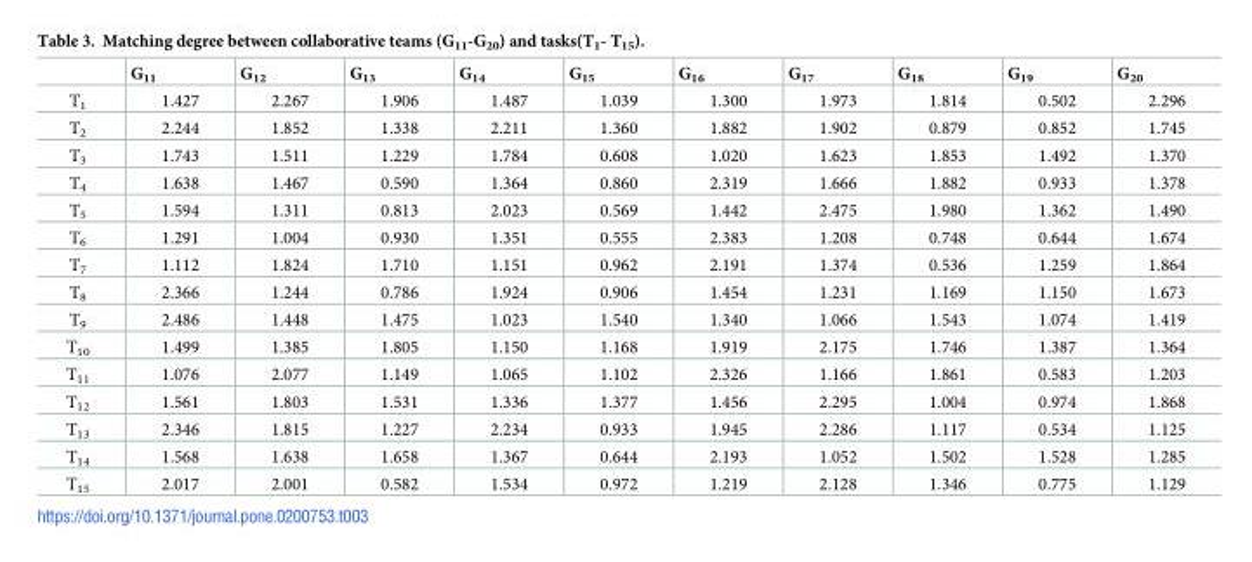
<table><thead><tr><td></td><td>G<sub>11</sub></td><td>G<sub>12</sub></td><td>G<sub>13</sub></td><td>G<sub>14</sub></td><td>G<sub>15</sub></td><td>G<sub>16</sub></td><td>G<sub>17</sub></td><td>G<sub>18</sub></td><td>G<sub>19</sub></td><td>G<sub>20</sub></td></tr></thead><tbody><tr><td>T<sub>1</sub></td><td>1.427</td><td>2.267</td><td>1.906</td><td>1.487</td><td>1.039</td><td>1.300</td><td>1.973</td><td>1.814</td><td>0.502</td><td>2.296</td></tr><tr><td>T<sub>2</sub></td><td>2.244</td><td>1.852</td><td>1.338</td><td>2.211</td><td>1.360</td><td>1.882</td><td>1.902</td><td>0.879</td><td>0.852</td><td>1.745</td></tr><tr><td>T<sub>3</sub></td><td>1.743</td><td>1.511</td><td>1.229</td><td>1.784</td><td>0.608</td><td>1.020</td><td>1.623</td><td>1.853</td><td>1.492</td><td>1.370</td></tr><tr><td>T<sub>4</sub></td><td>1.638</td><td>1.467</td><td>0.590</td><td>1.364</td><td>0.860</td><td>2.319</td><td>1.666</td><td>1.882</td><td>0.933</td><td>1.378</td></tr><tr><td>T<sub>5</sub></td><td>1.594</td><td>1.311</td><td>0.813</td><td>2.023</td><td>0.569</td><td>1.442</td><td>2.475</td><td>1.980</td><td>1.362</td><td>1.490</td></tr><tr><td>T<sub>6</sub></td><td>1.291</td><td>1.004</td><td>0.930</td><td>1.351</td><td>0.555</td><td>2.383</td><td>1.208</td><td>0.748</td><td>0.644</td><td>1.674</td></tr><tr><td>T<sub>7</sub></td><td>1.112</td><td>1.824</td><td>1.710</td><td>1.151</td><td>0.962</td><td>2.191</td><td>1.374</td><td>0.536</td><td>1.259</td><td>1.864</td></tr><tr><td>T<sub>8</sub></td><td>2.366</td><td>1.244</td><td>0.786</td><td>1.924</td><td>0.906</td><td>1.454</td><td>1.231</td><td>1.169</td><td>1.150</td><td>1.673</td></tr><tr><td>T<sub>9</sub></td><td>2.486</td><td>1.448</td><td>1.475</td><td>1.023</td><td>1.540</td><td>1.340</td><td>1.066</td><td>1.543</td><td>1.074</td><td>1.419</td></tr><tr><td>T<sub>10</sub></td><td>1.499</td><td>1.385</td><td>1.805</td><td>1.150</td><td>1.168</td><td>1.919</td><td>2.175</td><td>1.746</td><td>1.387</td><td>1.364</td></tr><tr><td>T<sub>11</sub></td><td>1.076</td><td>2.077</td><td>1.149</td><td>1.065</td><td>1.102</td><td>2.326</td><td>1.166</td><td>1.861</td><td>0.583</td><td>1.203</td></tr><tr><td>T<sub>12</sub></td><td>1.561</td><td>1.803</td><td>1.531</td><td>1.336</td><td>1.377</td><td>1.456</td><td>2.295</td><td>1.004</td><td>0.974</td><td>1.868</td></tr><tr><td>T<sub>13</sub></td><td>2.346</td><td>1.815</td><td>1.227</td><td>2.234</td><td>0.933</td><td>1.945</td><td>2.286</td><td>1.117</td><td>0.534</td><td>1.125</td></tr><tr><td>T<sub>14</sub></td><td>1.568</td><td>1.638</td><td>1.658</td><td>1.367</td><td>0.644</td><td>2.193</td><td>1.052</td><td>1.502</td><td>1.528</td><td>1.285</td></tr><tr><td>T<sub>15</sub></td><td>2.017</td><td>2.001</td><td>0.582</td><td>1.534</td><td>0.972</td><td>1.219</td><td>2.128</td><td>1.346</td><td>0.775</td><td>1.129</td></tr></tbody></table>